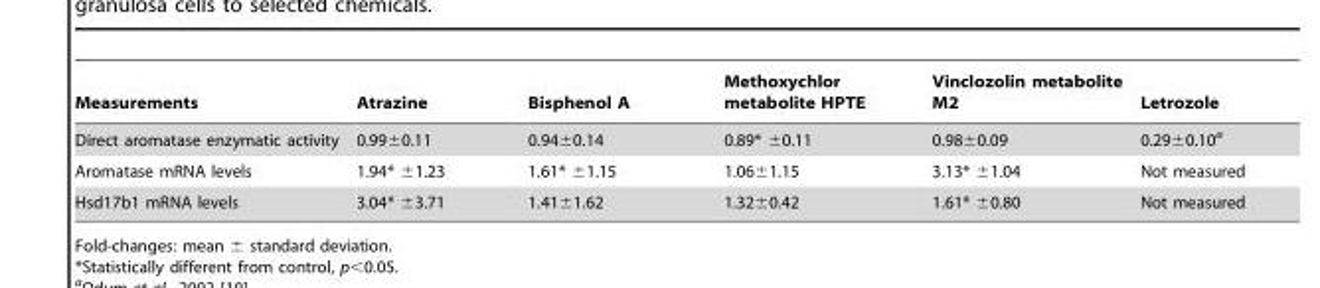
<table><thead><tr><td>Measurements</td><td>Atrazine</td><td>Bisphenol A</td><td>Methoxychlor metabolite HPTE</td><td>Vinclozolin metabolite M2</td><td>Letrozole</td></tr></thead><tbody><tr><td>Direct aromatase enzymatic activity</td><td>0.99±0.11</td><td>0.94±0.14</td><td>0.89* ±0.11</td><td>0.98±0.09</td><td>0.29±0.10<sup>a</sup></td></tr><tr><td>Aromatase mRNA levels</td><td>1.94* ±1.23</td><td>1.61* ±1.15</td><td>1.06±1.15</td><td>3.13* ±1.04</td><td>Not measured</td></tr><tr><td>Hsd17b1 mRNA levels</td><td>3.04* ±3.71</td><td>1.41±1.62</td><td>1.32±0.42</td><td>1.61* ±0.80</td><td>Not measured</td></tr></tbody></table>